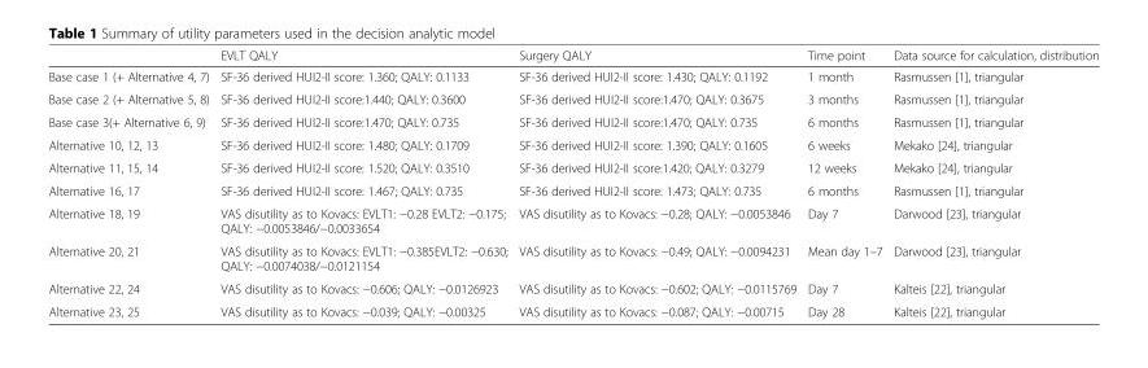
<table><thead><tr><td></td><td>EVLT QALY</td><td>Surgery QALY</td><td>Time point</td><td>Data source for calculation, distribution</td></tr></thead><tbody><tr><td>Base case 1 (+ Alternative 4, 7)</td><td>SF-36 derived HUI2-II score: 1.360; QALY: 0.1133</td><td>SF-36 derived HUI2-II score: 1.430; QALY: 0.1192</td><td>1 month</td><td>Rasmussen [1], triangular</td></tr><tr><td>Base case 2 (+ Alternative 5, 8)</td><td>SF-36 derived HUI2-II score:1.440; QALY: 0.3600</td><td>SF-36 derived HUI2-II score:1.470; QALY: 0.3675</td><td>3 months</td><td>Rasmussen [1], triangular</td></tr><tr><td>Base case 3(+ Alternative 6, 9)</td><td>SF-36 derived HUI2-II score:1.470; QALY: 0.735</td><td>SF-36 derived HUI2-II score:1.470; QALY: 0.735</td><td>6 months</td><td>Rasmussen [1], triangular</td></tr><tr><td>Alternative 10, 12, 13</td><td>SF-36 derived HUI2-II score: 1.480; QALY: 0.1709</td><td>SF-36 derived HUI2-II score: 1.390; QALY: 0.1605</td><td>6 weeks</td><td>Mekako [24], triangular</td></tr><tr><td>Alternative 11, 15, 14</td><td>SF-36 derived HUI2-II score: 1.520; QALY: 0.3510</td><td>SF-36 derived HUI2-II score:1.420; QALY: 0.3279</td><td>12 weeks</td><td>Mekako [24], triangular</td></tr><tr><td>Alternative 16, 17</td><td>SF-36 derived HUI2-II score: 1.467; QALY: 0.735</td><td>SF-36 derived HUI2-II score: 1.473; QALY: 0.735</td><td>6 months</td><td>Rasmussen [1], triangular</td></tr><tr><td>Alternative 18, 19</td><td>VAS disutility as to Kovacs: EVLT1: −0.28 EVLT2: −0.175; QALY: −0.0053846/−0.0033654</td><td>VAS disutility as to Kovacs: −0.28; QALY: −0.0053846</td><td>Day 7</td><td>Darwood [23], triangular</td></tr><tr><td>Alternative 20, 21</td><td>VAS disutility as to Kovacs: EVLT1: −0.385EVLT2: −0.630; QALY: −0.0074038/−0.0121154</td><td>VAS disutility as to Kovacs: −0.49; QALY: −0.0094231</td><td>Mean day 1–7</td><td>Darwood [23], triangular</td></tr><tr><td>Alternative 22, 24</td><td>VAS disutility as to Kovacs: −0.606; QALY: −0.0126923</td><td>VAS disutility as to Kovacs: −0.602; QALY: −0.0115769</td><td>Day 7</td><td>Kalteis [22], triangular</td></tr><tr><td>Alternative 23, 25</td><td>VAS disutility as to Kovacs: −0.039; QALY: −0.00325</td><td>VAS disutility as to Kovacs: −0.087; QALY: −0.00715</td><td>Day 28</td><td>Kalteis [22], triangular</td></tr></tbody></table>